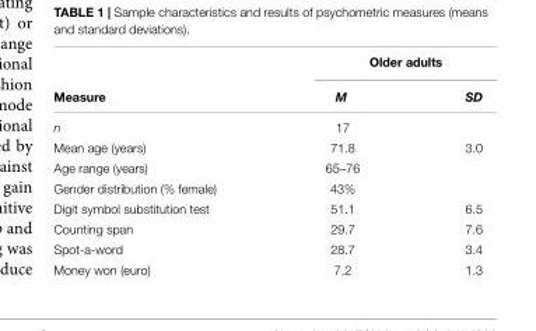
<table><thead><tr><td rowspan="2">Measure</td><td colspan="2">Older adults</td></tr><tr><td>M</td><td>SD</td></tr></thead><tbody><tr><td>n</td><td>17</td><td></td></tr><tr><td>Mean age (years)</td><td>71.8</td><td>3.0</td></tr><tr><td>Age range (years)</td><td>65–76</td><td></td></tr><tr><td>Gender distribution (% female)</td><td>43%</td><td></td></tr><tr><td>Digit symbol substitution test</td><td>51.1</td><td>6.5</td></tr><tr><td>Counting span</td><td>29.7</td><td>7.6</td></tr><tr><td>Spot-a-word</td><td>28.7</td><td>3.4</td></tr><tr><td>Money won (euro)</td><td>7.2</td><td>1.3</td></tr></tbody></table>